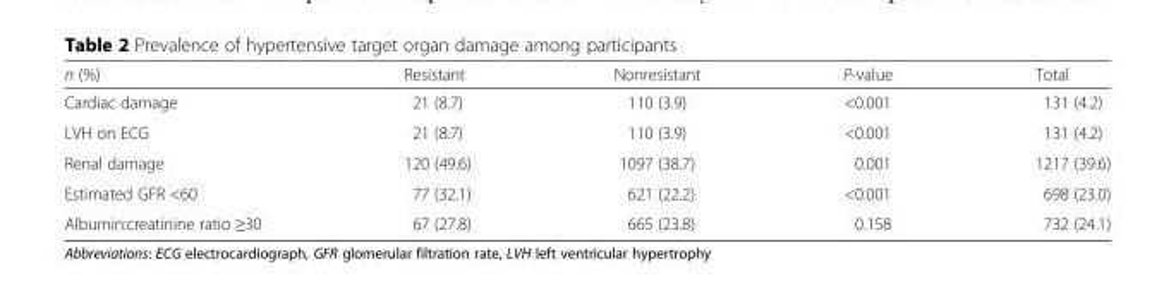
<table><thead><tr><td>n (%)</td><td>Resistant</td><td>Nonresistant</td><td>P-value</td><td>Total</td></tr></thead><tbody><tr><td>Cardiac damage</td><td>21 (8.7)</td><td>110 (3.9)</td><td>&lt;0.001</td><td>131 (4.2)</td></tr><tr><td>LVH on ECG</td><td>21 (8.7)</td><td>110 (3.9)</td><td>&lt;0.001</td><td>131 (4.2)</td></tr><tr><td>Renal damage</td><td>120 (49.6)</td><td>1097 (38.7)</td><td>0.001</td><td>1217 (39.6)</td></tr><tr><td>Estimated GFR &lt;60</td><td>77 (32.1)</td><td>621 (22.2)</td><td>&lt;0.001</td><td>698 (23.0)</td></tr><tr><td>Albumin:creatinine ratio ≥30</td><td>67 (27.8)</td><td>665 (23.8)</td><td>0.158</td><td>732 (24.1)</td></tr></tbody></table>